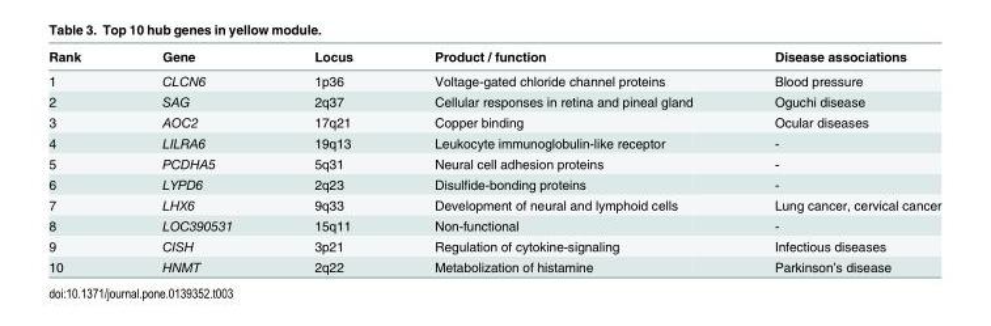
<table><thead><tr><td>Rank</td><td>Gene</td><td>Locus</td><td>Product / function</td><td>Disease associations</td></tr></thead><tbody><tr><td>1</td><td>CLCN6</td><td>1p36</td><td>Voltage-gated chloride channel proteins</td><td>Blood pressure</td></tr><tr><td>2</td><td>SAG</td><td>2q37</td><td>Cellular responses in retina and pineal gland</td><td>Oguchi disease</td></tr><tr><td>3</td><td>AOC2</td><td>17q21</td><td>Copper binding</td><td>Ocular diseases</td></tr><tr><td>4</td><td>LILRA6</td><td>19q13</td><td>Leukocyte immunoglobulin-like receptor</td><td>-</td></tr><tr><td>5</td><td>PCDHA5</td><td>5q31</td><td>Neural cell adhesion proteins</td><td>-</td></tr><tr><td>6</td><td>LYPD6</td><td>2q23</td><td>Disulfide-bonding proteins</td><td>-</td></tr><tr><td>7</td><td>LHX6</td><td>9q33</td><td>Development of neural and lymphoid cells</td><td>Lung cancer, cervical cancer</td></tr><tr><td>8</td><td>LOC390531</td><td>15q11</td><td>Non-functional</td><td>-</td></tr><tr><td>9</td><td>CISH</td><td>3p21</td><td>Regulation of cytokine-signaling</td><td>Infectious diseases</td></tr><tr><td>10</td><td>HNMT</td><td>2q22</td><td>Metabolization of histamine</td><td>Parkinson’s disease</td></tr></tbody></table>